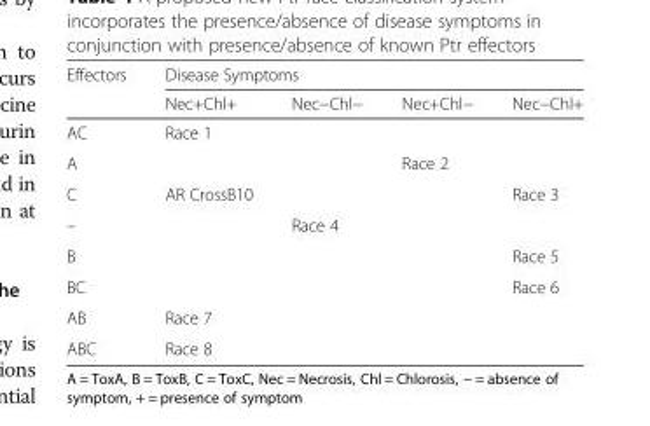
<table><thead><tr><td rowspan="2">Effectors</td><td colspan="4">Disease Symptoms</td></tr><tr><td>Nec+Chl+</td><td>Nec−Chl−</td><td>Nec+Chl−</td><td>Nec−Chl+</td></tr></thead><tbody><tr><td>AC</td><td>Race 1</td><td></td><td></td><td></td></tr><tr><td>A</td><td></td><td></td><td>Race 2</td><td></td></tr><tr><td>C</td><td>AR CrossB10</td><td></td><td></td><td>Race 3</td></tr><tr><td>–</td><td></td><td>Race 4</td><td></td><td></td></tr><tr><td>B</td><td></td><td></td><td></td><td>Race 5</td></tr><tr><td>BC</td><td></td><td></td><td></td><td>Race 6</td></tr><tr><td>AB</td><td>Race 7</td><td></td><td></td><td></td></tr><tr><td>ABC</td><td>Race 8</td><td></td><td></td><td></td></tr></tbody></table>